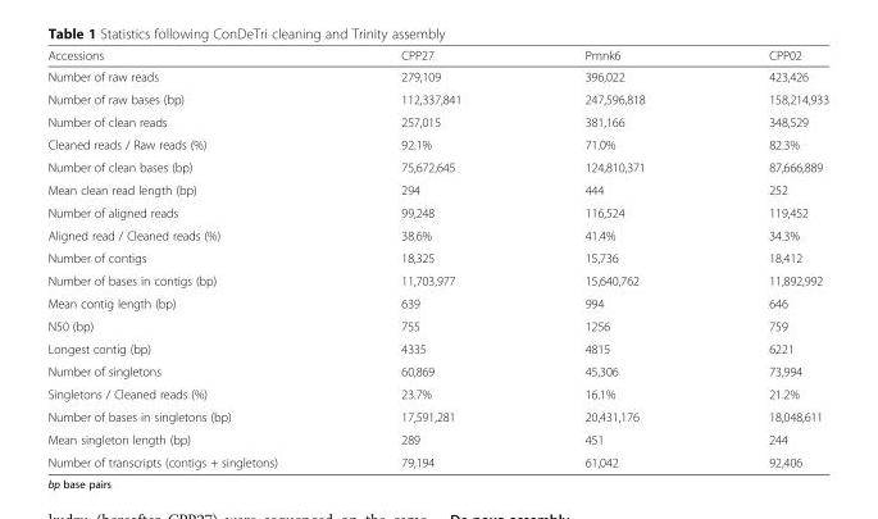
<table><thead><tr><td>Accessions</td><td>CPP27</td><td>Pmnk6</td><td>CPP02</td></tr></thead><tbody><tr><td>Number of raw reads</td><td>279,109</td><td>396,022</td><td>423,426</td></tr><tr><td>Number of raw bases (bp)</td><td>112,337,841</td><td>247,596,818</td><td>158,214,933</td></tr><tr><td>Number of clean reads</td><td>257,015</td><td>381,166</td><td>348,529</td></tr><tr><td>Cleaned reads / Raw reads (%)</td><td>92.1%</td><td>71.0%</td><td>82.3%</td></tr><tr><td>Number of clean bases (bp)</td><td>75,672,645</td><td>124,810,371</td><td>87,666,889</td></tr><tr><td>Mean clean read length (bp)</td><td>294</td><td>444</td><td>252</td></tr><tr><td>Number of aligned reads</td><td>99,248</td><td>116,524</td><td>119,452</td></tr><tr><td>Aligned read / Cleaned reads (%)</td><td>38.6%</td><td>41.4%</td><td>34.3%</td></tr><tr><td>Number of contigs</td><td>18,325</td><td>15,736</td><td>18,412</td></tr><tr><td>Number of bases in contigs (bp)</td><td>11,703,977</td><td>15,640,762</td><td>11,892,992</td></tr><tr><td>Mean contig length (bp)</td><td>639</td><td>994</td><td>646</td></tr><tr><td>N50 (bp)</td><td>755</td><td>1256</td><td>759</td></tr><tr><td>Longest contig (bp)</td><td>4335</td><td>4815</td><td>6221</td></tr><tr><td>Number of singletons</td><td>60,869</td><td>45,306</td><td>73,994</td></tr><tr><td>Singletons / Cleaned reads (%)</td><td>23.7%</td><td>16.1%</td><td>21.2%</td></tr><tr><td>Number of bases in singletons (bp)</td><td>17,591,281</td><td>20,431,176</td><td>18,048,611</td></tr><tr><td>Mean singleton length (bp)</td><td>289</td><td>451</td><td>244</td></tr><tr><td>Number of transcripts (contigs + singletons)</td><td>79,194</td><td>61,042</td><td>92,406</td></tr></tbody></table>